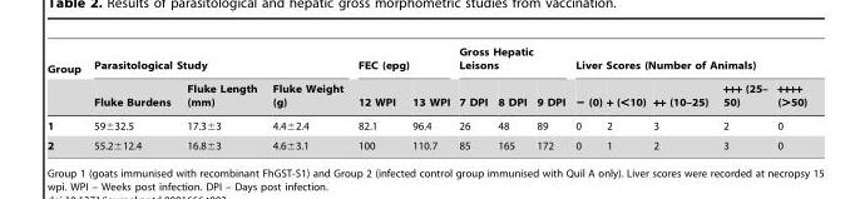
<table><thead><tr><td rowspan="2">Group</td><td colspan="3">Parasitological Study</td><td colspan="2">FEC (epg)</td><td colspan="3">Gross Hepatic Leisons</td><td colspan="5">Liver Scores (Number of Animals)</td></tr><tr><td>Fluke Burdens</td><td>Fluke Length (mm)</td><td>Fluke Weight (g)</td><td>12 WPI</td><td>13 WPI</td><td>7 DPI</td><td>8 DPI</td><td>9 DPI</td><td>− (0)</td><td>+ (&lt;10)</td><td>++ (10–25)</td><td>+++ (25– 50)</td><td>++++ (&gt;50)</td></tr></thead><tbody><tr><td>1</td><td>59±32.5</td><td>17.3±3</td><td>4.4±2.4</td><td>82.1</td><td>96.4</td><td>26</td><td>48</td><td>89</td><td>0</td><td>2</td><td>3</td><td>2</td><td>0</td></tr><tr><td>2</td><td>55.2±12.4</td><td>16.8±3</td><td>4.6±3.1</td><td>100</td><td>110.7</td><td>85</td><td>165</td><td>172</td><td>0</td><td>1</td><td>2</td><td>3</td><td>0</td></tr></tbody></table>